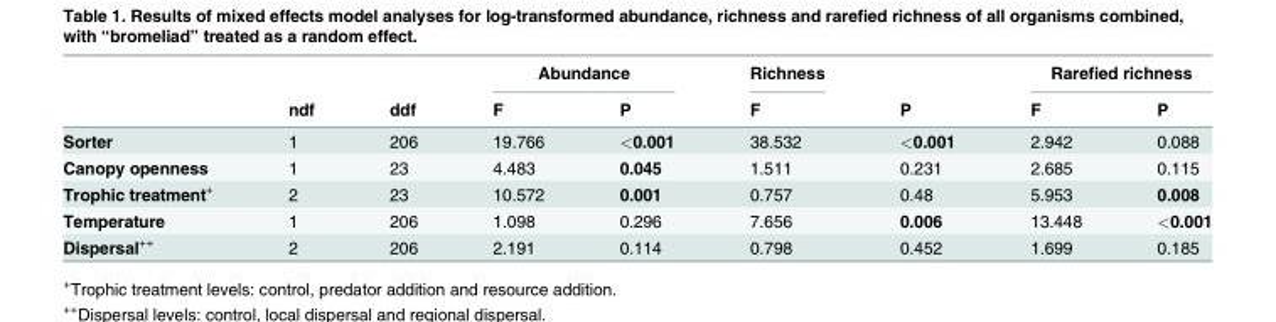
<table><thead><tr><td rowspan="2"></td><td rowspan="2">ndf</td><td rowspan="2">ddf</td><td colspan="2">Abundance</td><td rowspan="2">Richness F</td><td rowspan="2">P</td><td colspan="2">Rarefied richness</td></tr><tr><td>F</td><td>P</td><td>F</td><td>P</td></tr></thead><tbody><tr><td>Sorter</td><td>1</td><td>206</td><td>19.766</td><td>&lt;0.001</td><td>38.532</td><td>&lt;0.001</td><td>2.942</td><td>0.088</td></tr><tr><td>Canopy openness</td><td>1</td><td>23</td><td>4.483</td><td>0.045</td><td>1.511</td><td>0.231</td><td>2.685</td><td>0.115</td></tr><tr><td>Trophic treatment<sup>+</sup></td><td>2</td><td>23</td><td>10.572</td><td>0.001</td><td>0.757</td><td>0.48</td><td>5.953</td><td>0.008</td></tr><tr><td>Temperature</td><td>1</td><td>206</td><td>1.098</td><td>0.296</td><td>7.656</td><td>0.006</td><td>13.448</td><td>&lt;0.001</td></tr><tr><td>Dispersal<sup>++</sup></td><td>2</td><td>206</td><td>2.191</td><td>0.114</td><td>0.798</td><td>0.452</td><td>1.699</td><td>0.185</td></tr></tbody></table>